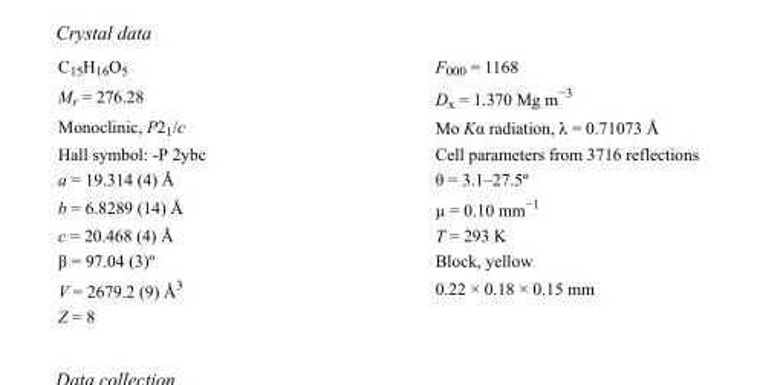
<table><tbody><tr><td>C<sub>15</sub>H<sub>16</sub>O<sub>5</sub></td><td>F000 = 1168</td></tr><tr><td>M<sub>r</sub> = 276.28</td><td>D<sub>x</sub> = 1.370 Mg m<sup>−3</sup></td></tr><tr><td>Monoclinic, P2<sub>1</sub>/c</td><td>Mo Kα radiation, λ = 0.71073 Å</td></tr><tr><td>Hall symbol: -P 2ybc</td><td>Cell parameters from 3716 reflections</td></tr><tr><td>a = 19.314 (4) Å</td><td>θ = 3.1–27.5º</td></tr><tr><td>b = 6.8289 (14) Å</td><td>µ = 0.10 mm<sup>−1</sup></td></tr><tr><td>c = 20.468 (4) Å</td><td>T = 293 K</td></tr><tr><td>β = 97.04 (3)º</td><td>Block, yellow</td></tr><tr><td>V = 2679.2 (9) Å<sup>3</sup></td><td>0.22 × 0.18 × 0.15 mm</td></tr><tr><td>Z = 8</td><td></td></tr></tbody></table>